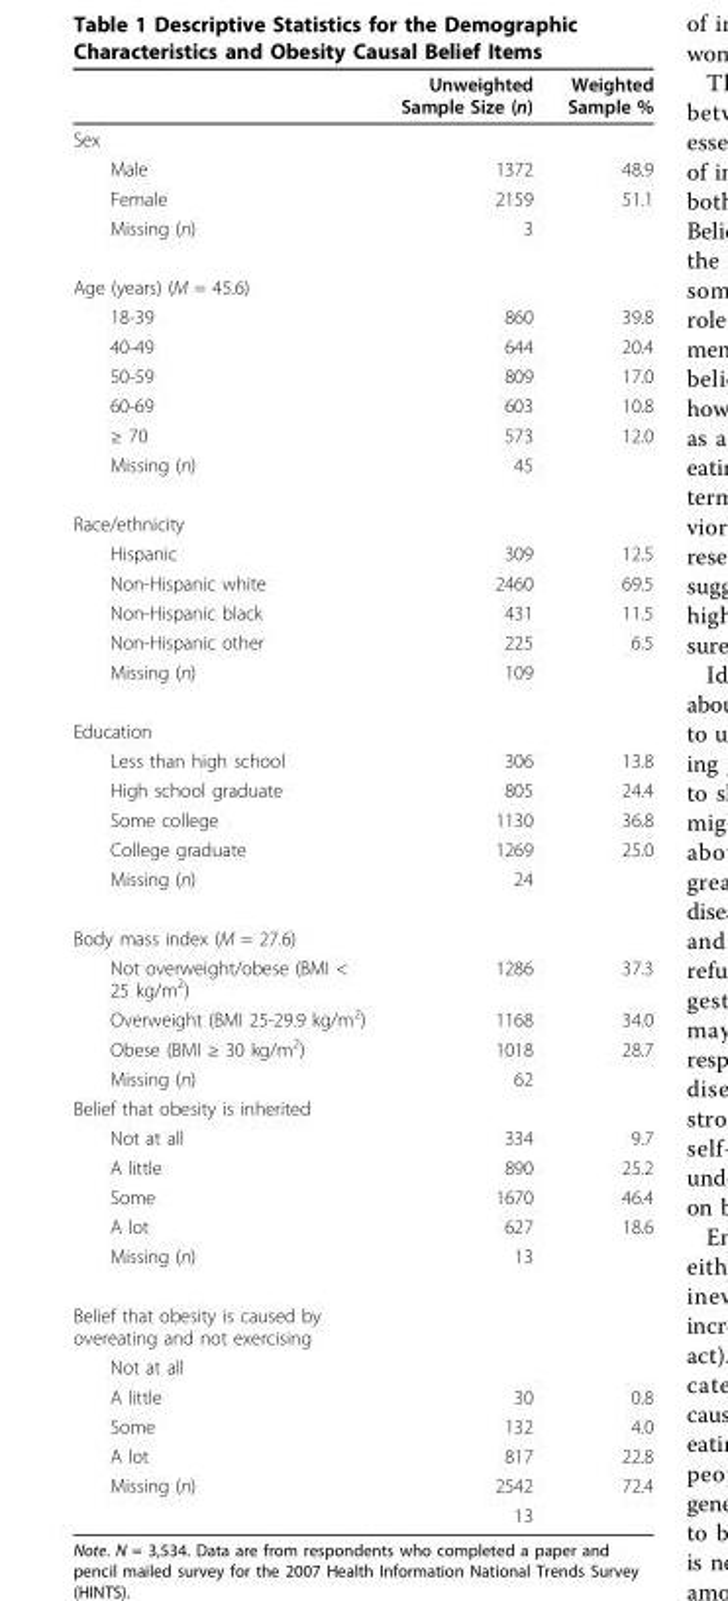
<table><thead><tr><td></td><td>Unweighted Sample Size (n)</td><td>Weighted Sample %</td></tr></thead><tbody><tr><td colspan="3">Sex</td></tr><tr><td>Male</td><td>1372</td><td>48.9</td></tr><tr><td>Female</td><td>2159</td><td>51.1</td></tr><tr><td>Missing (n)</td><td>3</td><td></td></tr><tr><td colspan="3">Age (years) (M = 45.6)</td></tr><tr><td>18-39</td><td>860</td><td>39.8</td></tr><tr><td>40-49</td><td>644</td><td>20.4</td></tr><tr><td>50-59</td><td>809</td><td>17.0</td></tr><tr><td>60-69</td><td>603</td><td>10.8</td></tr><tr><td>≥ 70</td><td>573</td><td>12.0</td></tr><tr><td>Missing (n)</td><td>45</td><td></td></tr><tr><td colspan="3">Race/ethnicity</td></tr><tr><td>Hispanic</td><td>309</td><td>12.5</td></tr><tr><td>Non-Hispanic white</td><td>2460</td><td>69.5</td></tr><tr><td>Non-Hispanic black</td><td>431</td><td>11.5</td></tr><tr><td>Non-Hispanic other</td><td>225</td><td>6.5</td></tr><tr><td>Missing (n)</td><td>109</td><td></td></tr><tr><td colspan="3">Education</td></tr><tr><td>Less than high school</td><td>306</td><td>13.8</td></tr><tr><td>High school graduate</td><td>805</td><td>24.4</td></tr><tr><td>Some college</td><td>1130</td><td>36.8</td></tr><tr><td>College graduate</td><td>1269</td><td>25.0</td></tr><tr><td>Missing (n)</td><td>24</td><td></td></tr><tr><td colspan="3">Body mass index (M = 27.6)</td></tr><tr><td>Not overweight/obese (BMI &lt; 25 kg/m<sup>2</sup>)</td><td>1286</td><td>37.3</td></tr><tr><td>Overweight (BMI 25-29.9 kg/m<sup>2</sup>)</td><td>1168</td><td>34.0</td></tr><tr><td>Obese (BMI ≥ 30 kg/m<sup>2</sup>)</td><td>1018</td><td>28.7</td></tr><tr><td>Missing (n)</td><td>62</td><td></td></tr><tr><td colspan="3">Belief that obesity is inherited</td></tr><tr><td>Not at all</td><td>334</td><td>9.7</td></tr><tr><td>A little</td><td>890</td><td>25.2</td></tr><tr><td>Some</td><td>1670</td><td>46.4</td></tr><tr><td>A lot</td><td>627</td><td>18.6</td></tr><tr><td>Missing (n)</td><td>13</td><td></td></tr><tr><td colspan="3">Belief that obesity is caused by overeating and not exercising</td></tr><tr><td colspan="3">Not at all</td></tr><tr><td>A little</td><td>30</td><td>0.8</td></tr><tr><td>Some</td><td>132</td><td>4.0</td></tr><tr><td>A lot</td><td>817</td><td>22.8</td></tr><tr><td rowspan="2">Missing (n)</td><td>2542</td><td>72.4</td></tr><tr><td>13</td><td></td></tr></tbody></table>